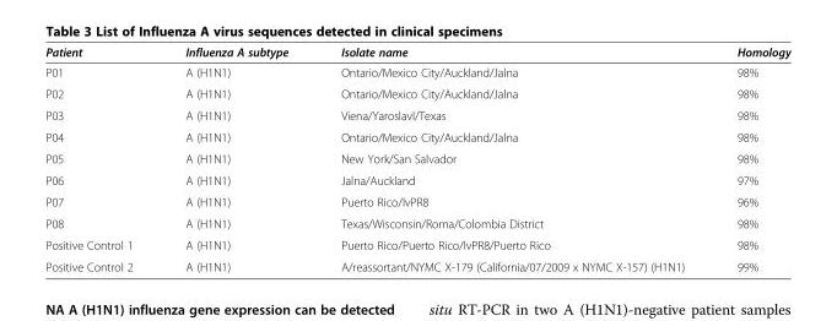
<table><thead><tr><td>Patient</td><td>Influenza A subtype</td><td>Isolate name</td><td>Homology</td></tr></thead><tbody><tr><td>P01</td><td>A (H1N1)</td><td>Ontario/Mexico City/Auckland/Jalna</td><td>98%</td></tr><tr><td>P02</td><td>A (H1N1)</td><td>Ontario/Mexico City/Auckland/Jalna</td><td>98%</td></tr><tr><td>P03</td><td>A (H1N1)</td><td>Viena/Yaroslavl/Texas</td><td>98%</td></tr><tr><td>P04</td><td>A (H1N1)</td><td>Ontario/Mexico City/Auckland/Jalna</td><td>98%</td></tr><tr><td>P05</td><td>A (H1N1)</td><td>New York/San Salvador</td><td>98%</td></tr><tr><td>P06</td><td>A (H1N1)</td><td>Jalna/Auckland</td><td>97%</td></tr><tr><td>P07</td><td>A (H1N1)</td><td>Puerto Rico/IvPR8</td><td>96%</td></tr><tr><td>P08</td><td>A (H1N1)</td><td>Texas/Wisconsin/Roma/Colombia District</td><td>98%</td></tr><tr><td>Positive Control 1</td><td>A (H1N1)</td><td>Puerto Rico/Puerto Rico/IvPR8/Puerto Rico</td><td>98%</td></tr><tr><td>Positive Control 2</td><td>A (H1N1)</td><td>A/reassortant/NYMC X-179 (California/07/2009 x NYMC X-157) (H1N1)</td><td>99%</td></tr></tbody></table>